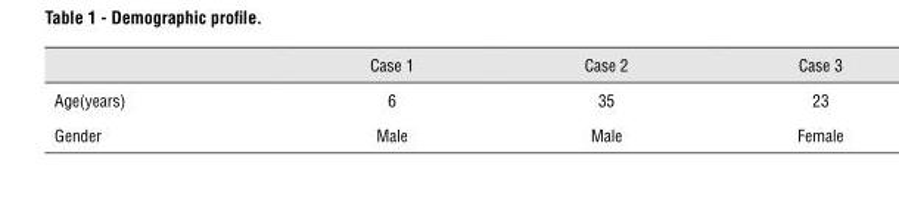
<table><thead><tr><td></td><td>Case 1</td><td>Case 2</td><td>Case 3</td></tr></thead><tbody><tr><td>Age(years)</td><td>6</td><td>35</td><td>23</td></tr><tr><td>Gender</td><td>Male</td><td>Male</td><td>Female</td></tr></tbody></table>